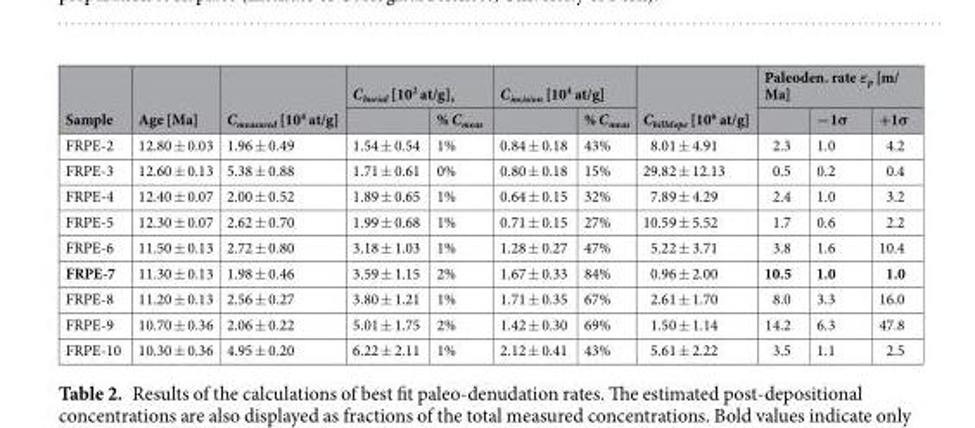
<table><thead><tr><td rowspan="2">Sample</td><td rowspan="2">Age [Ma]</td><td rowspan="2">C<sub>measured</sub> [10<sup>4</sup> at/g]</td><td colspan="2">C<sub>burial</sub> [10<sup>2</sup> at/g]<sub>s</sub></td><td colspan="2">C<sub>incision</sub> [10<sup>4</sup> at/g]</td><td rowspan="2">C<sub>hillslope</sub> [10<sup>6</sup> at/g]</td><td colspan="3">Paleoden. rate ε<sub>p</sub> [m/ Ma]</td></tr><tr><td></td><td>% C<sub>meas</sub></td><td></td><td>% C<sub>meas</sub></td><td></td><td>−1σ</td><td>+1σ</td></tr></thead><tbody><tr><td>FRPE-2</td><td>12.80 ± 0.03</td><td>1.96 ± 0.49</td><td>1.54 ± 0.54</td><td>1%</td><td>0.84 ± 0.18</td><td>43%</td><td>8.01 ± 4.91</td><td>2.3</td><td>1.0</td><td>4.2</td></tr><tr><td>FRPE-3</td><td>12.60 ± 0.13</td><td>5.38 ± 0.88</td><td>1.71 ± 0.61</td><td>0%</td><td>0.80 ± 0.18</td><td>15%</td><td>29.82 ± 12.13</td><td>0.5</td><td>0.2</td><td>0.4</td></tr><tr><td>FRPE-4</td><td>12.40 ± 0.07</td><td>2.00 ± 0.52</td><td>1.89 ± 0.65</td><td>1%</td><td>0.64 ± 0.15</td><td>32%</td><td>7.89 ± 4.29</td><td>2.4</td><td>1.0</td><td>3.2</td></tr><tr><td>FRPE-5</td><td>12.30 ± 0.07</td><td>2.62 ± 0.70</td><td>1.99 ± 0.68</td><td>1%</td><td>0.71 ± 0.15</td><td>27%</td><td>10.59 ± 5.52</td><td>1.7</td><td>0.6</td><td>2.2</td></tr><tr><td>FRPE-6</td><td>11.50 ± 0.13</td><td>2.72 ± 0.80</td><td>3.18 ± 1.03</td><td>1%</td><td>1.28 ± 0.27</td><td>47%</td><td>5.22 ± 3.71</td><td>3.8</td><td>1.6</td><td>10.4</td></tr><tr><td>FRPE-7</td><td>11.30 ± 0.13</td><td>1.98 ± 0.46</td><td>3.59 ± 1.15</td><td>2%</td><td>1.67 ± 0.33</td><td>84%</td><td>0.96 ± 2.00</td><td>10.5</td><td>1.0</td><td>1.0</td></tr><tr><td>FRPE-8</td><td>11.20 ± 0.13</td><td>2.56 ± 0.27</td><td>3.80 ± 1.21</td><td>1%</td><td>1.71 ± 0.35</td><td>67%</td><td>2.61 ± 1.70</td><td>8.0</td><td>3.3</td><td>16.0</td></tr><tr><td>FRPE-9</td><td>10.70 ± 0.36</td><td>2.06 ± 0.22</td><td>5.01 ± 1.75</td><td>2%</td><td>1.42 ± 0.30</td><td>69%</td><td>1.50 ± 1.14</td><td>14.2</td><td>6.3</td><td>47.8</td></tr><tr><td>FRPE-10</td><td>10.30 ± 0.36</td><td>4.95 ± 0.20</td><td>6.22 ± 2.11</td><td>1%</td><td>2.12 ± 0.41</td><td>43%</td><td>5.61 ± 2.22</td><td>3.5</td><td>1.1</td><td>2.5</td></tr></tbody></table>